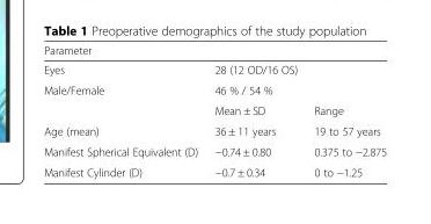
<table><thead><tr><td>Parameter</td><td></td><td></td></tr></thead><tbody><tr><td>Eyes</td><td>28 (12 OD/16 OS)</td><td></td></tr><tr><td rowspan="2">Male/Female</td><td>46 % / 54 %</td><td></td></tr><tr><td>Mean ± SD</td><td>Range</td></tr><tr><td>Age (mean)</td><td>36 ± 11 years</td><td>19 to 57 years</td></tr><tr><td>Manifest Spherical Equivalent (D)</td><td>−0.74 ± 0.80</td><td>0.375 to −2.875</td></tr><tr><td>Manifest Cylinder (D)</td><td>−0.7 ± 0.34</td><td>0 to −1.25</td></tr></tbody></table>